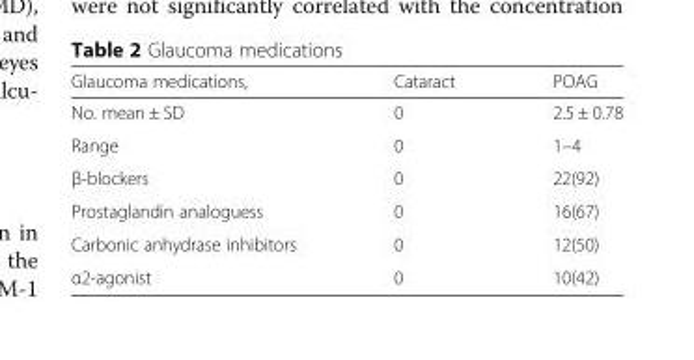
<table><thead><tr><td>Glaucoma medications,</td><td>Cataract</td><td>POAG</td></tr></thead><tbody><tr><td>No. mean ± SD</td><td>0</td><td>2.5 ± 0.78</td></tr><tr><td>Range</td><td>0</td><td>1–4</td></tr><tr><td>β-blockers</td><td>0</td><td>22(92)</td></tr><tr><td>Prostaglandin analoguess</td><td>0</td><td>16(67)</td></tr><tr><td>Carbonic anhydrase inhibitors</td><td>0</td><td>12(50)</td></tr><tr><td>α2-agonist</td><td>0</td><td>10(42)</td></tr></tbody></table>